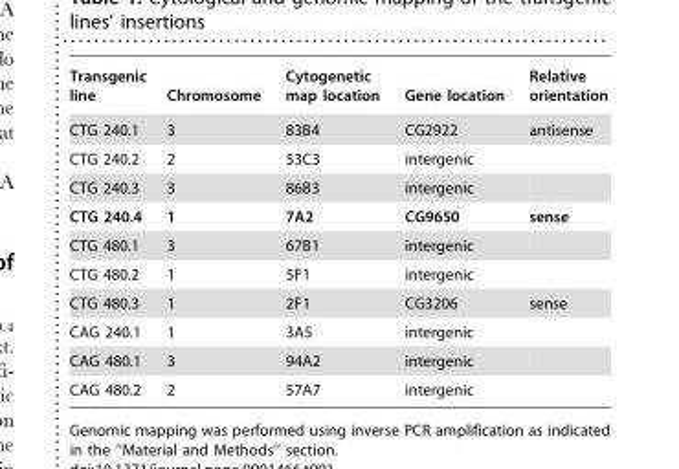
<table><thead><tr><td>Transgenic line</td><td>Chromosome</td><td>Cytogenetic map location</td><td>Gene location</td><td>Relative orientation</td></tr></thead><tbody><tr><td>CTG 240.1</td><td>3</td><td>83B4</td><td>CG2922</td><td>antisense</td></tr><tr><td>CTG 240.2</td><td>2</td><td>53C3</td><td>intergenic</td><td></td></tr><tr><td>CTG 240.3</td><td>3</td><td>86B3</td><td>intergenic</td><td></td></tr><tr><td>CTG 240.4</td><td>1</td><td>7A2</td><td>CG9650</td><td>sense</td></tr><tr><td>CTG 480.1</td><td>3</td><td>67B1</td><td>intergenic</td><td></td></tr><tr><td>CTG 480.2</td><td>1</td><td>5F1</td><td>intergenic</td><td></td></tr><tr><td>CTG 480.3</td><td>1</td><td>2F1</td><td>CG3206</td><td>sense</td></tr><tr><td>CAG 240.1</td><td>1</td><td>3A5</td><td>intergenic</td><td></td></tr><tr><td>CAG 480.1</td><td>3</td><td>94A2</td><td>intergenic</td><td></td></tr><tr><td>CAG 480.2</td><td>2</td><td>57A7</td><td>intergenic</td><td></td></tr></tbody></table>